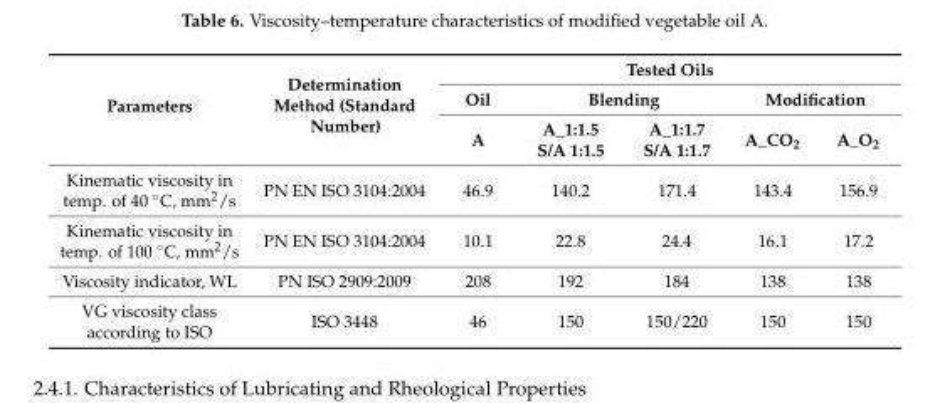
<table><thead><tr><td rowspan="3">Parameters</td><td rowspan="3">Determination Method (Standard Number)</td><td colspan="5">Tested Oils</td></tr><tr><td rowspan="2">Oil A</td><td colspan="2">Blending</td><td colspan="2">Modification</td></tr><tr><td>A_1:1.5 S/A 1:1.5</td><td>A_1:1.7 S/A 1:1.7</td><td>A_CO<sub>2</sub></td><td>A_O<sub>2</sub></td></tr></thead><tbody><tr><td>Kinematic viscosity in temp. of 40 ◦C, mm2/s</td><td>PN EN ISO 3104:2004</td><td>46.9</td><td>140.2</td><td>171.4</td><td>143.4</td><td>156.9</td></tr><tr><td>Kinematic viscosity in temp. of 100 ◦C, mm2/s</td><td>PN EN ISO 3104:2004</td><td>10.1</td><td>22.8</td><td>24.4</td><td>16.1</td><td>17.2</td></tr><tr><td>Viscosity indicator, WL</td><td>PN ISO 2909:2009</td><td>208</td><td>192</td><td>184</td><td>138</td><td>138</td></tr><tr><td>VG viscosity class according to ISO</td><td>ISO 3448</td><td>46</td><td>150</td><td>150/220</td><td>150</td><td>150</td></tr></tbody></table>